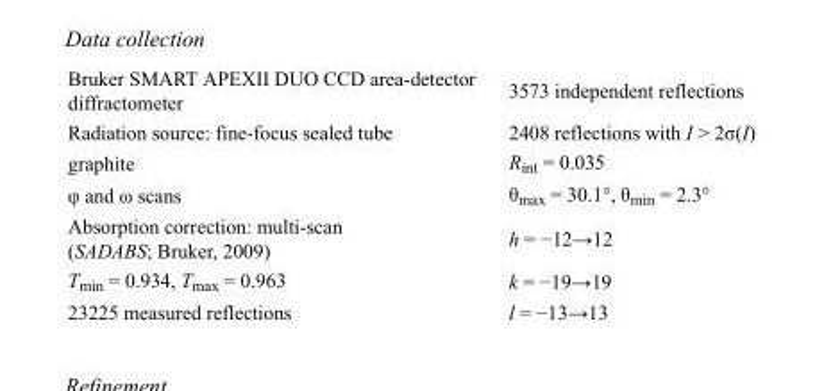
<table><tbody><tr><td>Bruker SMART APEXII DUO CCD area-detector diffractometer</td><td>3573 independent reflections</td></tr><tr><td>Radiation source: fine-focus sealed tube</td><td>2408 reflections with I &gt; 2σ(I)</td></tr><tr><td>graphite</td><td>R<sub>int</sub> = 0.035</td></tr><tr><td>φ and ω scans</td><td>θ<sub>max</sub> = 30.1°, θ<sub>min</sub> = 2.3°</td></tr><tr><td>Absorption correction: multi-scan (SADABS; Bruker, 2009)</td><td>h = −12→12</td></tr><tr><td>T<sub>min</sub> = 0.934, T<sub>max</sub> = 0.963</td><td>k = −19→19</td></tr><tr><td>23225 measured reflections</td><td>l = −13→13</td></tr></tbody></table>